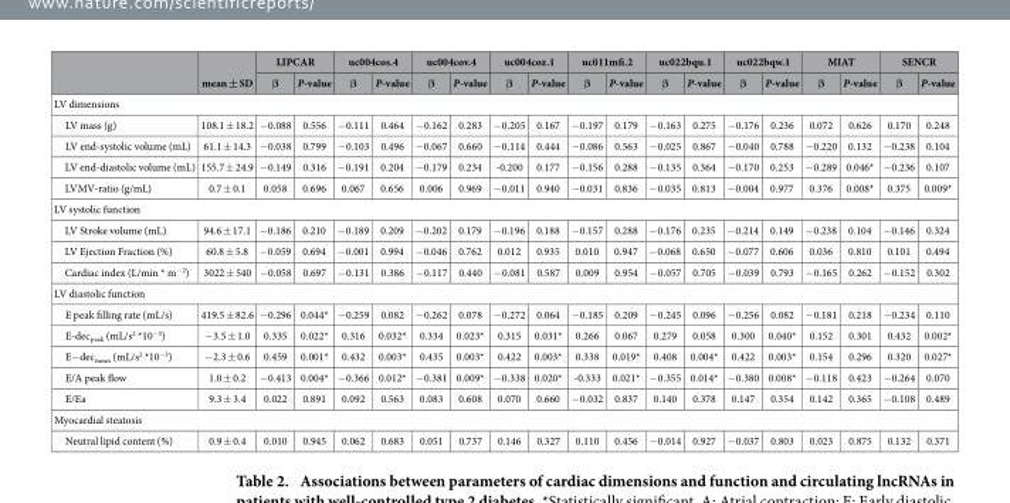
<table><thead><tr><td rowspan="2"></td><td rowspan="2">mean ± SD</td><td colspan="2">LIPCAR</td><td colspan="2">uc004cos.4</td><td colspan="2">uc004cov.4</td><td colspan="2">uc004coz.1</td><td colspan="2">uc011mfi.2</td><td colspan="2">uc022bqu.1</td><td colspan="2">uc022bqw.1</td><td colspan="2">MIAT</td><td colspan="2">SENCR</td></tr><tr><td>β</td><td>P-value</td><td>β</td><td>P-value</td><td>β</td><td>P-value</td><td>β</td><td>P-value</td><td>β</td><td>P-value</td><td>β</td><td>P-value</td><td>β</td><td>P-value</td><td>β</td><td>P-value</td><td>β</td><td>P-value</td></tr></thead><tbody><tr><td colspan="20">LV dimensions</td></tr><tr><td>LV mass (g)</td><td>108.1 ± 18.2</td><td>− 0.088</td><td>0.556</td><td>− 0.111</td><td>0.464</td><td>− 0.162</td><td>0.283</td><td>− 0.205</td><td>0.167</td><td>− 0.197</td><td>0.179</td><td>− 0.163</td><td>0.275</td><td>− 0.176</td><td>0.236</td><td>0.072</td><td>0.626</td><td>0.170</td><td>0.248</td></tr><tr><td>LV end-systolic volume (mL)</td><td>61.1 ± 14.3</td><td>− 0.038</td><td>0.799</td><td>− 0.103</td><td>0.496</td><td>− 0.067</td><td>0.660</td><td>− 0.114</td><td>0.444</td><td>− 0.086</td><td>0.563</td><td>− 0.025</td><td>0.867</td><td>− 0.040</td><td>0.788</td><td>− 0.220</td><td>0.132</td><td>− 0.238</td><td>0.104</td></tr><tr><td>LV end-diastolic volume (mL)</td><td>155.7 ± 24.9</td><td>− 0.149</td><td>0.316</td><td>− 0.191</td><td>0.204</td><td>− 0.179</td><td>0.234</td><td>-0.200</td><td>0.177</td><td>− 0.156</td><td>0.288</td><td>− 0.135</td><td>0.364</td><td>− 0.170</td><td>0.253</td><td>− 0.289</td><td>0.046*</td><td>− 0.236</td><td>0.107</td></tr><tr><td>LVMV-ratio (g/mL)</td><td>0.7 ± 0.1</td><td>0.058</td><td>0.696</td><td>0.067</td><td>0.656</td><td>0.006</td><td>0.969</td><td>− 0.011</td><td>0.940</td><td>− 0.031</td><td>0.836</td><td>− 0.035</td><td>0.813</td><td>− 0.004</td><td>0.977</td><td>0.376</td><td>0.008*</td><td>0.375</td><td>0.009*</td></tr><tr><td colspan="20">LV systolic function</td></tr><tr><td>LV Stroke volume (mL)</td><td>94.6 ± 17.1</td><td>− 0.186</td><td>0.210</td><td>− 0.189</td><td>0.209</td><td>− 0.202</td><td>0.179</td><td>− 0.196</td><td>0.188</td><td>− 0.157</td><td>0.288</td><td>− 0.176</td><td>0.235</td><td>− 0.214</td><td>0.149</td><td>− 0.238</td><td>0.104</td><td>− 0.146</td><td>0.324</td></tr><tr><td>LV Ejection Fraction (%)</td><td>60.8 ± 5.8</td><td>− 0.059</td><td>0.694</td><td>− 0.001</td><td>0.994</td><td>− 0.046</td><td>0.762</td><td>0.012</td><td>0.935</td><td>0.010</td><td>0.947</td><td>− 0.068</td><td>0.650</td><td>− 0.077</td><td>0.606</td><td>0.036</td><td>0.810</td><td>0.101</td><td>0.494</td></tr><tr><td>Cardiac index (L/min * m<sup>−2</sup>)</td><td>3022 ± 540</td><td>− 0.058</td><td>0.697</td><td>− 0.131</td><td>0.386</td><td>− 0.117</td><td>0.440</td><td>− 0.081</td><td>0.587</td><td>0.009</td><td>0.954</td><td>− 0.057</td><td>0.705</td><td>− 0.039</td><td>0.793</td><td>− 0.165</td><td>0.262</td><td>− 0.152</td><td>0.302</td></tr><tr><td colspan="20">LV diastolic function</td></tr><tr><td>E peak filling rate (mL/s)</td><td>419.5 ± 82.6</td><td>− 0.296</td><td>0.044*</td><td>− 0.259</td><td>0.082</td><td>− 0.262</td><td>0.078</td><td>− 0.272</td><td>0.064</td><td>− 0.185</td><td>0.209</td><td>− 0.245</td><td>0.096</td><td>− 0.256</td><td>0.082</td><td>− 0.181</td><td>0.218</td><td>− 0.234</td><td>0.110</td></tr><tr><td>E-dec<sub>peak</sub> (mL/s<sup>2</sup> *10<sup>−3</sup>)</td><td>− 3.5 ± 1.0</td><td>0.335</td><td>0.022*</td><td>0.316</td><td>0.032*</td><td>0.334</td><td>0.023*</td><td>0.315</td><td>0.031*</td><td>0.266</td><td>0.067</td><td>0.279</td><td>0.058</td><td>0.300</td><td>0.040*</td><td>0.152</td><td>0.301</td><td>0.432</td><td>0.002*</td></tr><tr><td>E− dec<sub>mean</sub> (mL/s<sup>2</sup> *10<sup>−3</sup>)</td><td>− 2.3 ± 0.6</td><td>0.459</td><td>0.001*</td><td>0.432</td><td>0.003*</td><td>0.435</td><td>0.003*</td><td>0.422</td><td>0.003*</td><td>0.338</td><td>0.019*</td><td>0.408</td><td>0.004*</td><td>0.422</td><td>0.003*</td><td>0.154</td><td>0.296</td><td>0.320</td><td>0.027*</td></tr><tr><td>E/A peak flow</td><td>1.0 ± 0.2</td><td>− 0.413</td><td>0.004*</td><td>− 0.366</td><td>0.012*</td><td>− 0.381</td><td>0.009*</td><td>− 0.338</td><td>0.020*</td><td>-0.333</td><td>0.021*</td><td>− 0.355</td><td>0.014*</td><td>− 0.380</td><td>0.008*</td><td>− 0.118</td><td>0.423</td><td>− 0.264</td><td>0.070</td></tr><tr><td>E/Ea</td><td>9.3 ± 3.4</td><td>0.022</td><td>0.891</td><td>0.092</td><td>0.563</td><td>0.083</td><td>0.608</td><td>0.070</td><td>0.660</td><td>− 0.032</td><td>0.837</td><td>0.140</td><td>0.378</td><td>0.147</td><td>0.354</td><td>0.142</td><td>0.365</td><td>− 0.108</td><td>0.489</td></tr><tr><td colspan="20">Myocardial steatosis</td></tr><tr><td>Neutral lipid content (%)</td><td>0.9 ± 0.4</td><td>0.010</td><td>0.945</td><td>0.062</td><td>0.683</td><td>0.051</td><td>0.737</td><td>0.146</td><td>0.327</td><td>0.110</td><td>0.456</td><td>− 0.014</td><td>0.927</td><td>− 0.037</td><td>0.803</td><td>0.023</td><td>0.875</td><td>0.132</td><td>0.371</td></tr></tbody></table>